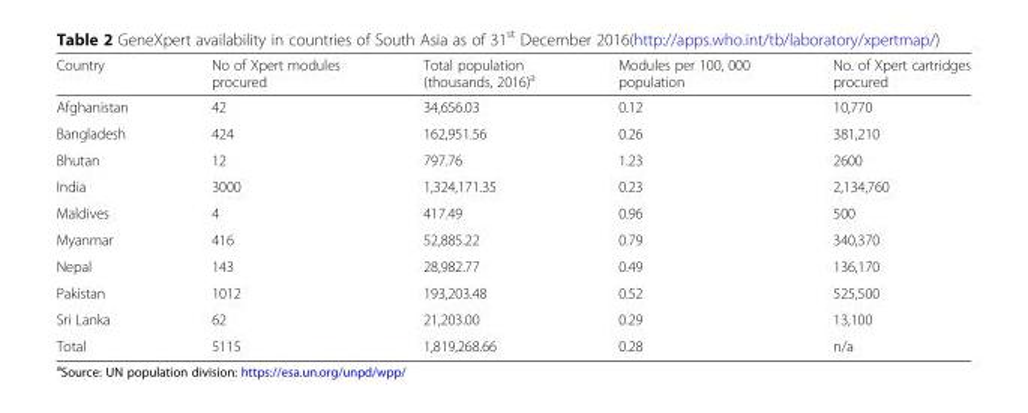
<table><thead><tr><td>Country</td><td>No of Xpert modules procured</td><td>Total population (thousands, 2016)<sup>a</sup></td><td>Modules per 100, 000 population</td><td>No. of Xpert cartridges procured</td></tr></thead><tbody><tr><td>Afghanistan</td><td>42</td><td>34,656.03</td><td>0.12</td><td>10,770</td></tr><tr><td>Bangladesh</td><td>424</td><td>162,951.56</td><td>0.26</td><td>381,210</td></tr><tr><td>Bhutan</td><td>12</td><td>797.76</td><td>1.23</td><td>2600</td></tr><tr><td>India</td><td>3000</td><td>1,324,171.35</td><td>0.23</td><td>2,134,760</td></tr><tr><td>Maldives</td><td>4</td><td>417.49</td><td>0.96</td><td>500</td></tr><tr><td>Myanmar</td><td>416</td><td>52,885.22</td><td>0.79</td><td>340,370</td></tr><tr><td>Nepal</td><td>143</td><td>28,982.77</td><td>0.49</td><td>136,170</td></tr><tr><td>Pakistan</td><td>1012</td><td>193,203.48</td><td>0.52</td><td>525,500</td></tr><tr><td>Sri Lanka</td><td>62</td><td>21,203.00</td><td>0.29</td><td>13,100</td></tr><tr><td>Total</td><td>5115</td><td>1,819,268.66</td><td>0.28</td><td>n/a</td></tr></tbody></table>